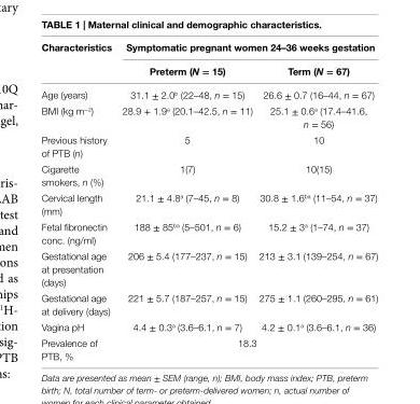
<table><thead><tr><td rowspan="2">characteristics</td><td colspan="2">symptomatic pregnant women 24–36 weeks gestation</td></tr><tr><td>Preterm (N = 15)</td><td>Term (N = 67)</td></tr></thead><tbody><tr><td>Age (years)</td><td>31.1 ± 2.0<sup>b</sup> (22–48, n = 15)</td><td>26.6 ± 0.7 (16–44, n = 67)</td></tr><tr><td>BMI (kg m<sup>−2</sup>)</td><td>28.9 + 1.9<sup>a</sup> (20.1–42.5, n = 11)</td><td>25.1 ± 0.6<sup>a</sup> (17.4–41.6, n = 56)</td></tr><tr><td>Previous history of PTB (n)</td><td>5</td><td>10</td></tr><tr><td>Cigarette smokers, n (%)</td><td>1(7)</td><td>10(15)</td></tr><tr><td>Cervical length (mm)</td><td>21.1 ± 4.8<sup>a</sup> (7–45, n = 8)</td><td>30.8 ± 1.6<sup>ba</sup> (11–54, n = 37)</td></tr><tr><td>Fetal fibronectin conc. (ng/ml)</td><td>188 ± 85<sup>ba</sup> (5–501, n = 6)</td><td>15.2 ± 3<sup>a</sup> (1–74, n = 37)</td></tr><tr><td>Gestational age at presentation (days)</td><td>206 ± 5.4 (177–237, n = 15)</td><td>213 ± 3.1 (139–254, n = 67)</td></tr><tr><td>Gestational age at delivery (days)</td><td>221 ± 5.7 (187–257, n = 15)</td><td>275 ± 1.1 (260–295, n = 61)</td></tr><tr><td>Vagina pH</td><td>4.4 ± 0.3<sup>a</sup> (3.6–6.1, n = 7)</td><td>4.2 ± 0.1<sup>a</sup> (3.6–6.1, n = 36)</td></tr><tr><td>Prevalence of PTB, %</td><td colspan="2">18.3</td></tr></tbody></table>